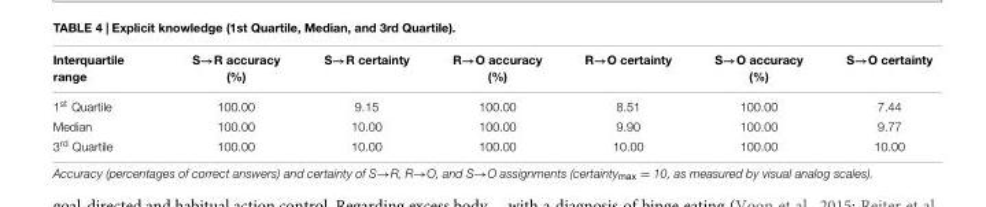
<table><thead><tr><td>Interquartile range</td><td>S→R accuracy (%)</td><td>S→R certainty</td><td>R→O accuracy (%)</td><td>R→O certainty</td><td>S→O accuracy (%)</td><td>S→O certainty</td></tr></thead><tbody><tr><td>1<sup>st</sup> Quartile</td><td>100.00</td><td>9.15</td><td>100.00</td><td>8.51</td><td>100.00</td><td>7.44</td></tr><tr><td>Median</td><td>100.00</td><td>10.00</td><td>100.00</td><td>9.90</td><td>100.00</td><td>9.77</td></tr><tr><td>3<sup>rd</sup> Quartile</td><td>100.00</td><td>10.00</td><td>100.00</td><td>10.00</td><td>100.00</td><td>10.00</td></tr></tbody></table>